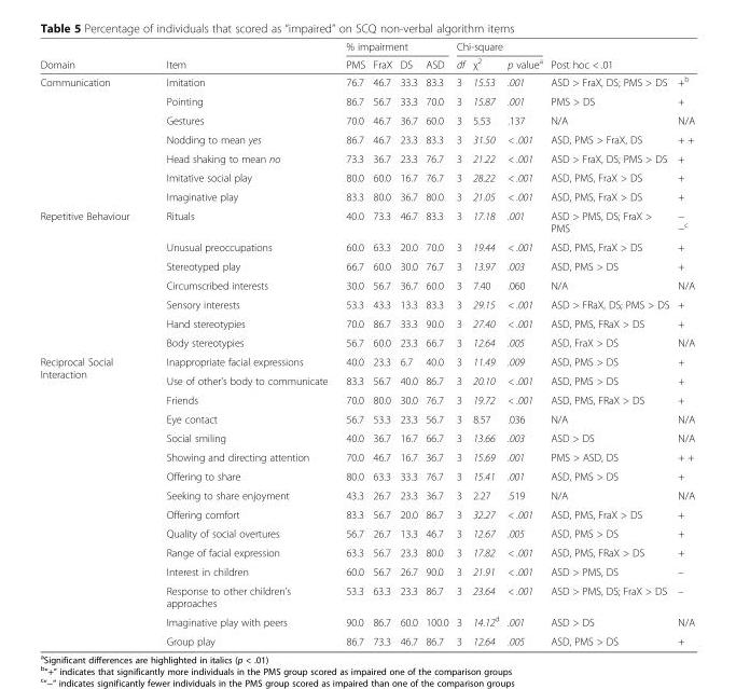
<table><thead><tr><td rowspan="2">Domain</td><td rowspan="2">Item</td><td colspan="4">% impairment</td><td colspan="3">Chi-square</td><td rowspan="2">Post hoc &lt; .01</td><td rowspan="2"></td></tr><tr><td>PMS</td><td>FraX</td><td>DS</td><td>ASD</td><td>df</td><td>χ<sup>2</sup></td><td>p value<sup>a</sup></td></tr></thead><tbody><tr><td rowspan="7">Communication</td><td>Imitation</td><td>76.7</td><td>46.7</td><td>33.3</td><td>83.3</td><td>3</td><td>15.53</td><td>.001</td><td>ASD &gt; FraX, DS; PMS &gt; DS</td><td>+<sup>b</sup></td></tr><tr><td>Pointing</td><td>86.7</td><td>56.7</td><td>33.3</td><td>70.0</td><td>3</td><td>15.87</td><td>.001</td><td>PMS &gt; DS</td><td>+</td></tr><tr><td>Gestures</td><td>70.0</td><td>46.7</td><td>36.7</td><td>60.0</td><td>3</td><td>5.53</td><td>.137</td><td>N/A</td><td>N/A</td></tr><tr><td>Nodding to mean yes</td><td>86.7</td><td>46.7</td><td>23.3</td><td>83.3</td><td>3</td><td>31.50</td><td>&lt; .001</td><td>ASD, PMS &gt; FraX, DS</td><td>+ +</td></tr><tr><td>Head shaking to mean no</td><td>73.3</td><td>36.7</td><td>23.3</td><td>76.7</td><td>3</td><td>21.22</td><td>&lt; .001</td><td>ASD &gt; FraX, DS; PMS &gt; DS</td><td>+</td></tr><tr><td>Imitative social play</td><td>80.0</td><td>60.0</td><td>16.7</td><td>76.7</td><td>3</td><td>28.22</td><td>&lt; .001</td><td>ASD, PMS, FraX &gt; DS</td><td>+</td></tr><tr><td>Imaginative play</td><td>83.3</td><td>80.0</td><td>36.7</td><td>80.0</td><td>3</td><td>21.05</td><td>&lt; .001</td><td>ASD, PMS, FraX &gt; DS</td><td>+</td></tr><tr><td rowspan="7">Repetitive Behaviour</td><td>Rituals</td><td>40.0</td><td>73.3</td><td>46.7</td><td>83.3</td><td>3</td><td>17.18</td><td>.001</td><td>ASD &gt; PMS, DS; FraX &gt; PMS</td><td>− −<sup>c</sup></td></tr><tr><td>Unusual preoccupations</td><td>60.0</td><td>63.3</td><td>20.0</td><td>70.0</td><td>3</td><td>19.44</td><td>&lt; .001</td><td>ASD, PMS, FraX &gt; DS</td><td>+</td></tr><tr><td>Stereotyped play</td><td>66.7</td><td>60.0</td><td>30.0</td><td>76.7</td><td>3</td><td>13.97</td><td>.003</td><td>ASD, PMS &gt; DS</td><td>+</td></tr><tr><td>Circumscribed interests</td><td>30.0</td><td>56.7</td><td>36.7</td><td>60.0</td><td>3</td><td>7.40</td><td>.060</td><td>N/A</td><td>N/A</td></tr><tr><td>Sensory interests</td><td>53.3</td><td>43.3</td><td>13.3</td><td>83.3</td><td>3</td><td>29.15</td><td>&lt; .001</td><td>ASD &gt; FRaX, DS; PMS &gt; DS</td><td>+</td></tr><tr><td>Hand stereotypies</td><td>70.0</td><td>86.7</td><td>33.3</td><td>90.0</td><td>3</td><td>27.40</td><td>&lt; .001</td><td>ASD, PMS, FRaX &gt; DS</td><td>+</td></tr><tr><td>Body stereotypies</td><td>56.7</td><td>60.0</td><td>23.3</td><td>66.7</td><td>3</td><td>12.64</td><td>.005</td><td>ASD, FraX &gt; DS</td><td>N/A</td></tr><tr><td rowspan="15">Reciprocal Social Interaction</td><td>Inappropriate facial expressions</td><td>40.0</td><td>23.3</td><td>6.7</td><td>40.0</td><td>3</td><td>11.49</td><td>.009</td><td>ASD, PMS &gt; DS</td><td>+</td></tr><tr><td>Use of other’s body to communicate</td><td>83.3</td><td>56.7</td><td>40.0</td><td>86.7</td><td>3</td><td>20.10</td><td>&lt; .001</td><td>ASD, PMS &gt; DS</td><td>+</td></tr><tr><td>Friends</td><td>70.0</td><td>80.0</td><td>30.0</td><td>76.7</td><td>3</td><td>19.72</td><td>&lt; .001</td><td>ASD, PMS, FRaX &gt; DS</td><td>+</td></tr><tr><td>Eye contact</td><td>56.7</td><td>53.3</td><td>23.3</td><td>56.7</td><td>3</td><td>8.57</td><td>.036</td><td>N/A</td><td>N/A</td></tr><tr><td>Social smiling</td><td>40.0</td><td>36.7</td><td>16.7</td><td>66.7</td><td>3</td><td>13.66</td><td>.003</td><td>ASD &gt; DS</td><td>N/A</td></tr><tr><td>Showing and directing attention</td><td>70.0</td><td>46.7</td><td>16.7</td><td>36.7</td><td>3</td><td>15.69</td><td>.001</td><td>PMS &gt; ASD, DS</td><td>+ +</td></tr><tr><td>Offering to share</td><td>80.0</td><td>63.3</td><td>33.3</td><td>76.7</td><td>3</td><td>15.41</td><td>.001</td><td>ASD, PMS &gt; DS</td><td>+</td></tr><tr><td>Seeking to share enjoyment</td><td>43.3</td><td>26.7</td><td>23.3</td><td>36.7</td><td>3</td><td>2.27</td><td>.519</td><td>N/A</td><td>N/A</td></tr><tr><td>Offering comfort</td><td>83.3</td><td>56.7</td><td>20.0</td><td>86.7</td><td>3</td><td>32.27</td><td>&lt; .001</td><td>ASD, PMS, FraX &gt; DS</td><td>+</td></tr><tr><td>Quality of social overtures</td><td>56.7</td><td>26.7</td><td>13.3</td><td>46.7</td><td>3</td><td>12.67</td><td>.005</td><td>ASD, PMS &gt; DS</td><td>+</td></tr><tr><td>Range of facial expression</td><td>63.3</td><td>56.7</td><td>23.3</td><td>80.0</td><td>3</td><td>17.82</td><td>&lt; .001</td><td>ASD, PMS, FRaX &gt; DS</td><td>+</td></tr><tr><td>Interest in children</td><td>60.0</td><td>56.7</td><td>26.7</td><td>90.0</td><td>3</td><td>21.91</td><td>&lt; .001</td><td>ASD &gt; PMS, DS</td><td>–</td></tr><tr><td>Response to other children’s approaches</td><td>53.3</td><td>63.3</td><td>23.3</td><td>86.7</td><td>3</td><td>23.64</td><td>&lt; .001</td><td>ASD &gt; PMS, DS; FraX &gt; DS</td><td>–</td></tr><tr><td>Imaginative play with peers</td><td>90.0</td><td>86.7</td><td>60.0</td><td>100.0</td><td>3</td><td>14.12<sup>d</sup></td><td>.001</td><td>ASD &gt; DS</td><td>N/A</td></tr><tr><td>Group play</td><td>86.7</td><td>73.3</td><td>46.7</td><td>86.7</td><td>3</td><td>12.64</td><td>.005</td><td>ASD, PMS &gt; DS</td><td>+</td></tr></tbody></table>